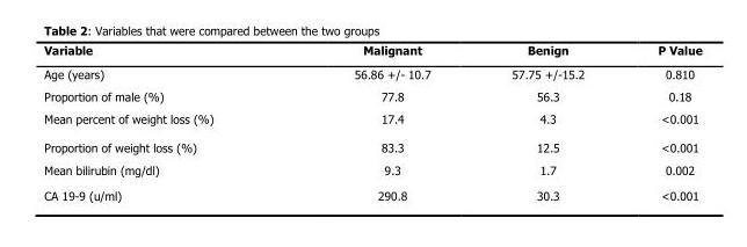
<table><thead><tr><td>Variable</td><td>Malignant</td><td>Benign</td><td>P Value</td></tr></thead><tbody><tr><td>Age (years)</td><td>56.86 +/- 10.7</td><td>57.75 +/-15.2</td><td>0.810</td></tr><tr><td>Proportion of male (%)</td><td>77.8</td><td>56.3</td><td>0.18</td></tr><tr><td>Mean percent of weight loss (%)</td><td>17.4</td><td>4.3</td><td>&lt;0.001</td></tr><tr><td>Proportion of weight loss (%)</td><td>83.3</td><td>12.5</td><td>&lt;0.001</td></tr><tr><td>Mean bilirubin (mg/dl)</td><td>9.3</td><td>1.7</td><td>0.002</td></tr><tr><td>CA 19-9 (u/ml)</td><td>290.8</td><td>30.3</td><td>&lt;0.001</td></tr></tbody></table>